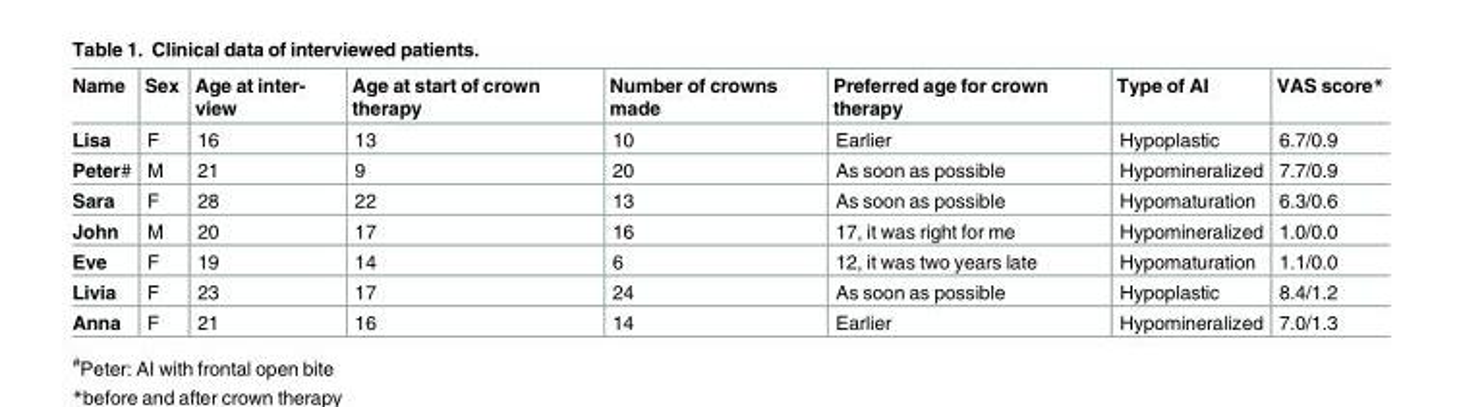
<table><thead><tr><td>Name</td><td>Sex</td><td>Age at inter- view</td><td>Age at start of crown therapy</td><td>Number of crowns made</td><td>Preferred age for crown therapy</td><td>Type of AI</td><td>VAS score*</td></tr></thead><tbody><tr><td>Lisa</td><td>F</td><td>16</td><td>13</td><td>10</td><td>Earlier</td><td>Hypoplastic</td><td>6.7/0.9</td></tr><tr><td>Peter#</td><td>M</td><td>21</td><td>9</td><td>20</td><td>As soon as possible</td><td>Hypomineralized</td><td>7.7/0.9</td></tr><tr><td>Sara</td><td>F</td><td>28</td><td>22</td><td>13</td><td>As soon as possible</td><td>Hypomaturation</td><td>6.3/0.6</td></tr><tr><td>John</td><td>M</td><td>20</td><td>17</td><td>16</td><td>17, it was right for me</td><td>Hypomineralized</td><td>1.0/0.0</td></tr><tr><td>Eve</td><td>F</td><td>19</td><td>14</td><td>6</td><td>12, it was two years late</td><td>Hypomaturation</td><td>1.1/0.0</td></tr><tr><td>Livia</td><td>F</td><td>23</td><td>17</td><td>24</td><td>As soon as possible</td><td>Hypoplastic</td><td>8.4/1.2</td></tr><tr><td>Anna</td><td>F</td><td>21</td><td>16</td><td>14</td><td>Earlier</td><td>Hypomineralized</td><td>7.0/1.3</td></tr></tbody></table>